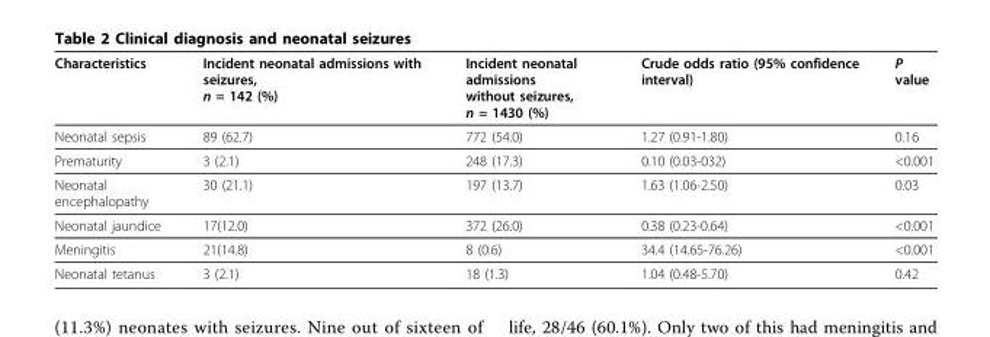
<table><thead><tr><td>Characteristics</td><td>Incident neonatal admissions with seizures, n = 142 (%)</td><td>Incident neonatal admissions without seizures, n = 1430 (%)</td><td>Crude odds ratio (95% confidence interval)</td><td>P value</td></tr></thead><tbody><tr><td>Neonatal sepsis</td><td>89 (62.7)</td><td>772 (54.0)</td><td>1.27 (0.91-1.80)</td><td>0.16</td></tr><tr><td>Prematurity</td><td>3 (2.1)</td><td>248 (17.3)</td><td>0.10 (0.03-032)</td><td>&lt;0.001</td></tr><tr><td>Neonatal encephalopathy</td><td>30 (21.1)</td><td>197 (13.7)</td><td>1.63 (1.06-2.50)</td><td>0.03</td></tr><tr><td>Neonatal jaundice</td><td>17(12.0)</td><td>372 (26.0)</td><td>0.38 (0.23-0.64)</td><td>&lt;0.001</td></tr><tr><td>Meningitis</td><td>21(14.8)</td><td>8 (0.6)</td><td>34.4 (14.65-76.26)</td><td>&lt;0.001</td></tr><tr><td>Neonatal tetanus</td><td>3 (2.1)</td><td>18 (1.3)</td><td>1.04 (0.48-5.70)</td><td>0.42</td></tr></tbody></table>